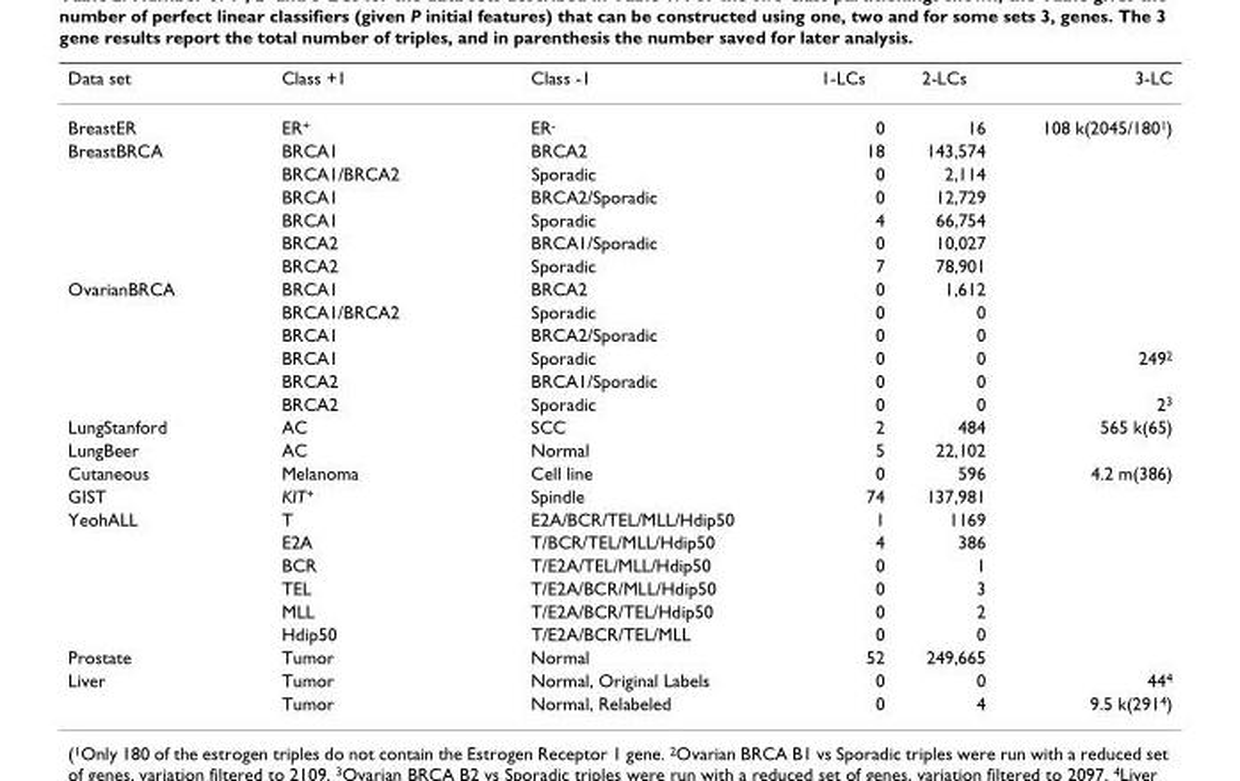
<table><thead><tr><td>Data set</td><td>Class +1</td><td>Class -1</td><td>1-LCs</td><td>2-LCs</td><td>3-LC</td></tr></thead><tbody><tr><td>BreastER</td><td>ER+</td><td>ER-</td><td>0</td><td>16</td><td>108 k(2045/1801)</td></tr><tr><td rowspan="6">BreastBRCA</td><td>BRCA1</td><td>BRCA2</td><td>18</td><td>143,574</td><td></td></tr><tr><td>BRCA1/BRCA2</td><td>Sporadic</td><td>0</td><td>2,114</td><td></td></tr><tr><td>BRCA1</td><td>BRCA2/Sporadic</td><td>0</td><td>12,729</td><td></td></tr><tr><td>BRCA1</td><td>Sporadic</td><td>4</td><td>66,754</td><td></td></tr><tr><td>BRCA2</td><td>BRCA1/Sporadic</td><td>0</td><td>10,027</td><td></td></tr><tr><td>BRCA2</td><td>Sporadic</td><td>7</td><td>78,901</td><td></td></tr><tr><td rowspan="6">OvarianBRCA</td><td>BRCA1</td><td>BRCA2</td><td>0</td><td>1,612</td><td></td></tr><tr><td>BRCA1/BRCA2</td><td>Sporadic</td><td>0</td><td>0</td><td></td></tr><tr><td>BRCA1</td><td>BRCA2/Sporadic</td><td>0</td><td>0</td><td></td></tr><tr><td>BRCA1</td><td>Sporadic</td><td>0</td><td>0</td><td>2492</td></tr><tr><td>BRCA2</td><td>BRCA1/Sporadic</td><td>0</td><td>0</td><td></td></tr><tr><td>BRCA2</td><td>Sporadic</td><td>0</td><td>0</td><td>23</td></tr><tr><td>LungStanford</td><td>AC</td><td>SCC</td><td>2</td><td>484</td><td>565 k(65)</td></tr><tr><td>LungBeer</td><td>AC</td><td>Normal</td><td>5</td><td>22,102</td><td></td></tr><tr><td>Cutaneous</td><td>Melanoma</td><td>Cell line</td><td>0</td><td>596</td><td>4.2 m(386)</td></tr><tr><td>GIST</td><td>KIT+</td><td>Spindle</td><td>74</td><td>137,981</td><td></td></tr><tr><td rowspan="6">YeohALL</td><td>T</td><td>E2A/BCR/TEL/MLL/Hdip50</td><td>1</td><td>1169</td><td></td></tr><tr><td>E2A</td><td>T/BCR/TEL/MLL/Hdip50</td><td>4</td><td>386</td><td></td></tr><tr><td>BCR</td><td>T/E2A/TEL/MLL/Hdip50</td><td>0</td><td>1</td><td></td></tr><tr><td>TEL</td><td>T/E2A/BCR/MLL/Hdip50</td><td>0</td><td>3</td><td></td></tr><tr><td>MLL</td><td>T/E2A/BCR/TEL/Hdip50</td><td>0</td><td>2</td><td></td></tr><tr><td>Hdip50</td><td>T/E2A/BCR/TEL/MLL</td><td>0</td><td>0</td><td></td></tr><tr><td>Prostate</td><td>Tumor</td><td>Normal</td><td>52</td><td>249,665</td><td></td></tr><tr><td rowspan="2">Liver</td><td>Tumor</td><td>Normal, Original Labels</td><td>0</td><td>0</td><td>444</td></tr><tr><td>Tumor</td><td>Normal, Relabeled</td><td>0</td><td>4</td><td>9.5 k(2914)</td></tr></tbody></table>